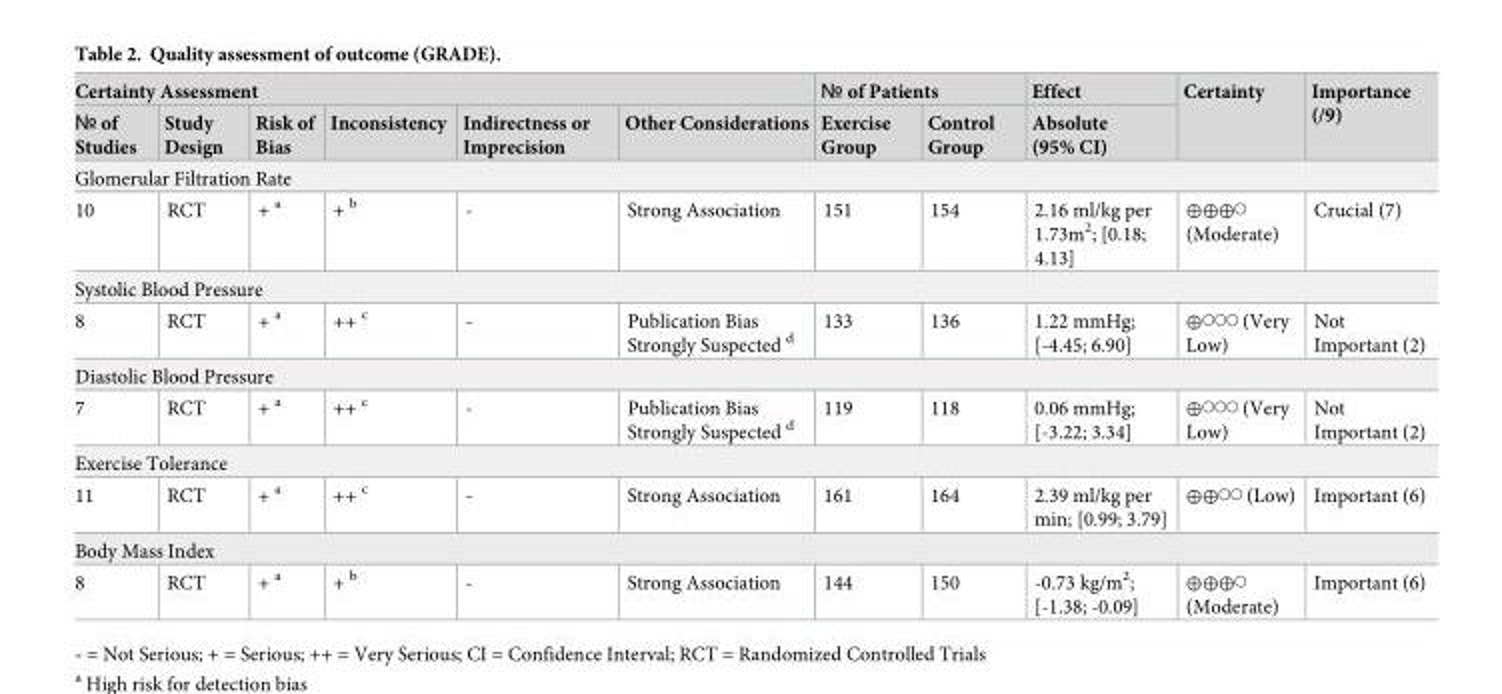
<table><thead><tr><td colspan="6">Certainty Assessment</td><td colspan="2">№ of Patients</td><td rowspan="2">Effect Absolute (95% CI)</td><td rowspan="2">Certainty</td><td rowspan="2">Importance (/9)</td></tr><tr><td>№ of Studies</td><td>Study Design</td><td>Risk of Bias</td><td>Inconsistency</td><td>Indirectness or Imprecision</td><td>Other Considerations</td><td>Exercise Group</td><td>Control Group</td></tr></thead><tbody><tr><td colspan="11">Glomerular Filtration Rate</td></tr><tr><td>10</td><td>RCT</td><td>+ <sup>a</sup></td><td>+ <sup>b</sup></td><td>-</td><td>Strong Association</td><td>151</td><td>154</td><td>2.16 ml/kg per 1.73m<sup>2</sup>; [0.18; 4.13]</td><td>⊕⊕⊕◯ (Moderate)</td><td>Crucial (7)</td></tr><tr><td colspan="11">Systolic Blood Pressure</td></tr><tr><td>8</td><td>RCT</td><td>+ <sup>a</sup></td><td>++ <sup>c</sup></td><td>-</td><td>Publication Bias Strongly Suspected <sup>d</sup></td><td>133</td><td>136</td><td>1.22 mmHg; [-4.45; 6.90]</td><td>⊕◯◯◯ (Very Low)</td><td>Not Important (2)</td></tr><tr><td colspan="11">Diastolic Blood Pressure</td></tr><tr><td>7</td><td>RCT</td><td>+ <sup>a</sup></td><td>++ <sup>c</sup></td><td>-</td><td>Publication Bias Strongly Suspected <sup>d</sup></td><td>119</td><td>118</td><td>0.06 mmHg; [-3.22; 3.34]</td><td>⊕◯◯◯ (Very Low)</td><td>Not Important (2)</td></tr><tr><td colspan="11">Exercise Tolerance</td></tr><tr><td>11</td><td>RCT</td><td>+ <sup>a</sup></td><td>++ <sup>c</sup></td><td>-</td><td>Strong Association</td><td>161</td><td>164</td><td>2.39 ml/kg per min; [0.99; 3.79]</td><td>⊕⊕◯◯ (Low)</td><td>Important (6)</td></tr><tr><td colspan="11">Body Mass Index</td></tr><tr><td>8</td><td>RCT</td><td>+ <sup>a</sup></td><td>+ <sup>b</sup></td><td>-</td><td>Strong Association</td><td>144</td><td>150</td><td>-0.73 kg/m<sup>2</sup>; [-1.38; -0.09]</td><td>⊕⊕⊕◯ (Moderate)</td><td>Important (6)</td></tr></tbody></table>